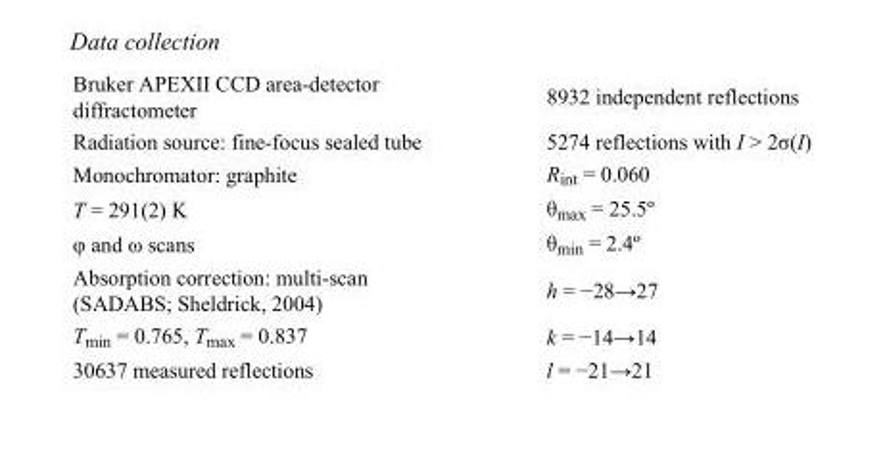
<table><tbody><tr><td>Bruker APEXII CCD area-detector diffractometer</td><td>8932 independent reflections</td></tr><tr><td>Radiation source: fine-focus sealed tube</td><td>5274 reflections with I &gt; 2σ(I)</td></tr><tr><td>Monochromator: graphite</td><td>R<sub>int</sub> = 0.060</td></tr><tr><td>T = 291(2) K</td><td>θ<sub>max</sub> = 25.5º</td></tr><tr><td>φ and ω scans</td><td>θ<sub>min</sub> = 2.4º</td></tr><tr><td>Absorption correction: multi-scan (SADABS; Sheldrick, 2004)</td><td>h = −28→27</td></tr><tr><td>T<sub>min</sub> = 0.765, T<sub>max</sub> = 0.837</td><td>k = −14→14</td></tr><tr><td>30637 measured reflections</td><td>l = −21→21</td></tr></tbody></table>